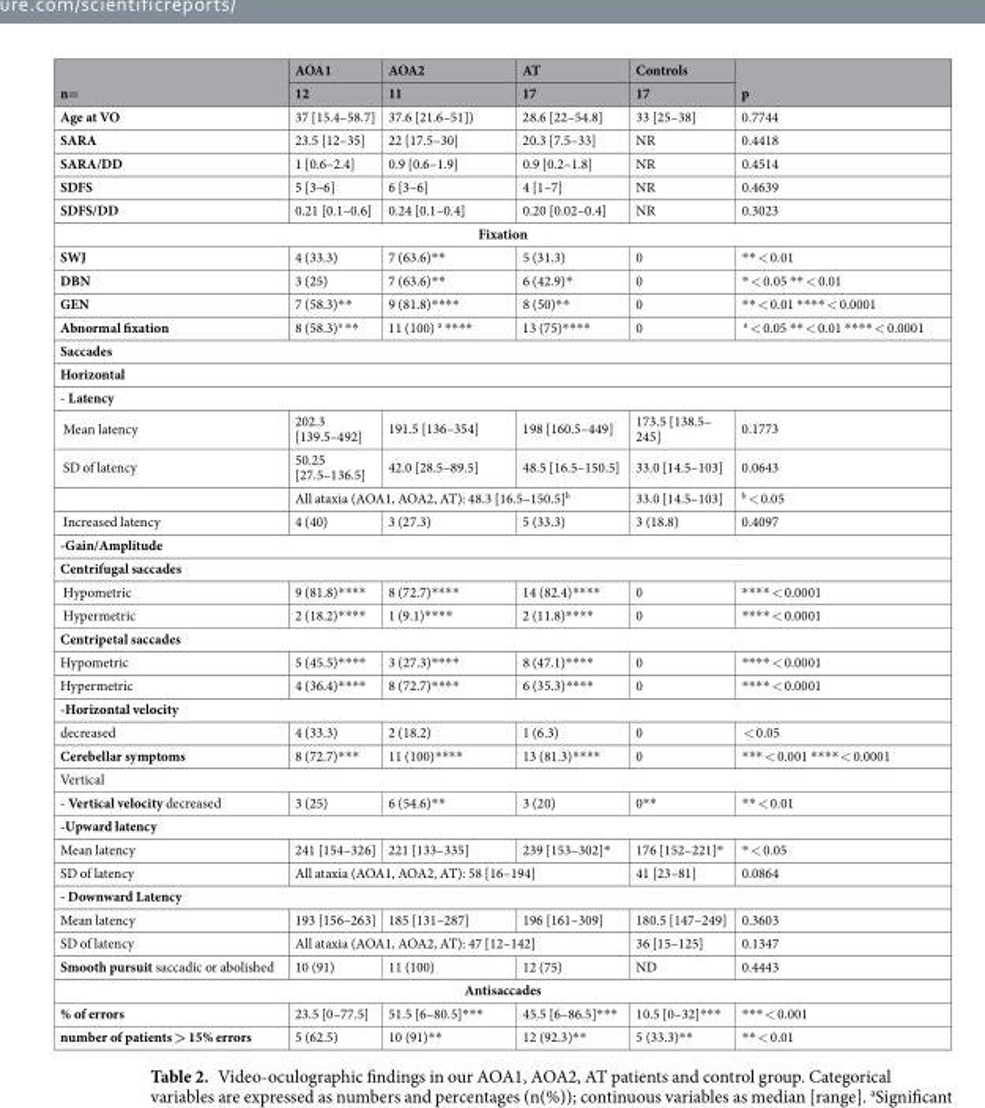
<table><thead><tr><td rowspan="2">n=</td><td rowspan="2">AOA1 12</td><td rowspan="2">AOA2 11</td><td rowspan="2">AT 17</td><td rowspan="2">Controls 17</td><td rowspan="2">p</td></tr><tr></tr></thead><tbody><tr><td>Age at VO</td><td>37 [15.4–58.7]</td><td>37.6 [21.6–51])</td><td>28.6 [22–54.8]</td><td>33 [25–38]</td><td>0.7744</td></tr><tr><td>SARA</td><td>23.5 [12–35]</td><td>22 [17.5–30]</td><td>20.3 [7.5–33]</td><td>NR</td><td>0.4418</td></tr><tr><td>SARA/DD</td><td>1 [0.6–2.4]</td><td>0.9 [0.6–1.9]</td><td>0.9 [0.2–1.8]</td><td>NR</td><td>0.4514</td></tr><tr><td>SDFS</td><td>5 [3–6]</td><td>6 [3–6]</td><td>4 [1–7]</td><td>NR</td><td>0.4639</td></tr><tr><td>SDFS/DD</td><td>0.21 [0.1–0.6]</td><td>0.24 [0.1–0.4]</td><td>0.20 [0.02–0.4]</td><td>NR</td><td>0.3023</td></tr><tr><td colspan="6">Fixation</td></tr><tr><td>SWJ</td><td>4 (33.3)</td><td>7 (63.6)**</td><td>5 (31.3)</td><td>0</td><td>** &lt; 0.01</td></tr><tr><td>DBN</td><td>3 (25)</td><td>7 (63.6)**</td><td>6 (42.9)*</td><td>0</td><td>* &lt; 0.05 ** &lt; 0.01</td></tr><tr><td>GEN</td><td>7 (58.3)**</td><td>9 (81.8)****</td><td>8 (50)**</td><td>0</td><td>** &lt; 0.01 **** &lt; 0.0001</td></tr><tr><td>Abnormal fixation</td><td>8 (58.3)<sup>a</sup> **</td><td>11 (100) <sup>a</sup> ****</td><td>13 (75)****</td><td>0</td><td><sup>a</sup> &lt; 0.05 ** &lt; 0.01 **** &lt; 0.0001</td></tr><tr><td colspan="6">Saccades</td></tr><tr><td colspan="6">Horizontal</td></tr><tr><td colspan="6">- Latency</td></tr><tr><td>Mean latency</td><td>202.3 [139.5–492]</td><td>191.5 [136–354]</td><td>198 [160.5–449]</td><td>173.5 [138.5– 245]</td><td>0.1773</td></tr><tr><td rowspan="2">SD of latency</td><td>50.25 [27.5–136.5]</td><td>42.0 [28.5–89.5]</td><td>48.5 [16.5–150.5]</td><td>33.0 [14.5–103]</td><td>0.0643</td></tr><tr><td colspan="3">All ataxia (AOA1, AOA2, AT): 48.3 [16.5–150.5]<sup>b</sup></td><td>33.0 [14.5–103]</td><td><sup>b</sup> &lt; 0.05</td></tr><tr><td>Increased latency</td><td>4 (40)</td><td>3 (27.3)</td><td>5 (33.3)</td><td>3 (18.8)</td><td>0.4097</td></tr><tr><td colspan="6">-Gain/Amplitude</td></tr><tr><td colspan="6">Centrifugal saccades</td></tr><tr><td>Hypometric</td><td>9 (81.8)****</td><td>8 (72.7)****</td><td>14 (82.4)****</td><td>0</td><td>**** &lt; 0.0001</td></tr><tr><td>Hypermetric</td><td>2 (18.2)****</td><td>1 (9.1)****</td><td>2 (11.8)****</td><td>0</td><td>**** &lt; 0.0001</td></tr><tr><td colspan="6">Centripetal saccades</td></tr><tr><td>Hypometric</td><td>5 (45.5)****</td><td>3 (27.3)****</td><td>8 (47.1)****</td><td>0</td><td>**** &lt; 0.0001</td></tr><tr><td>Hypermetric</td><td>4 (36.4)****</td><td>8 (72.7)****</td><td>6 (35.3)****</td><td>0</td><td>**** &lt; 0.0001</td></tr><tr><td colspan="6">-Horizontal velocity</td></tr><tr><td>decreased</td><td>4 (33.3)</td><td>2 (18.2)</td><td>1 (6.3)</td><td>0</td><td>&lt; 0.05</td></tr><tr><td>Cerebellar symptoms</td><td>8 (72.7)***</td><td>11 (100)****</td><td>13 (81.3)****</td><td>0</td><td>*** &lt; 0.001 **** &lt; 0.0001</td></tr><tr><td colspan="6">Vertical</td></tr><tr><td>- Vertical velocity decreased</td><td>3 (25)</td><td>6 (54.6)**</td><td>3 (20)</td><td>0**</td><td>** &lt; 0.01</td></tr><tr><td colspan="6">-Upward latency</td></tr><tr><td>Mean latency</td><td>241 [154–326]</td><td>221 [133–335]</td><td>239 [153–302]*</td><td>176 [152–221]*</td><td>* &lt; 0.05</td></tr><tr><td>SD of latency</td><td colspan="3">All ataxia (AOA1, AOA2, AT): 58 [16–194]</td><td>41 [23–81]</td><td>0.0864</td></tr><tr><td colspan="6">- Downward Latency</td></tr><tr><td>Mean latency</td><td>193 [156–263]</td><td>185 [131–287]</td><td>196 [161–309]</td><td>180.5 [147–249]</td><td>0.3603</td></tr><tr><td>SD of latency</td><td colspan="3">All ataxia (AOA1, AOA2, AT): 47 [12–142]</td><td>36 [15–125]</td><td>0.1347</td></tr><tr><td>Smooth pursuit saccadic or abolished</td><td>10 (91)</td><td>11 (100)</td><td>12 (75)</td><td>ND</td><td>0.4443</td></tr><tr><td colspan="6">Antisaccades</td></tr><tr><td>% of errors</td><td>23.5 [0–77.5]</td><td>51.5 [6–80.5]***</td><td>45.5 [6–86.5]***</td><td>10.5 [0–32]***</td><td>*** &lt; 0.001</td></tr><tr><td>number of patients &gt; 15% errors</td><td>5 (62.5)</td><td>10 (91)**</td><td>12 (92.3)**</td><td>5 (33.3)**</td><td>** &lt; 0.01</td></tr></tbody></table>